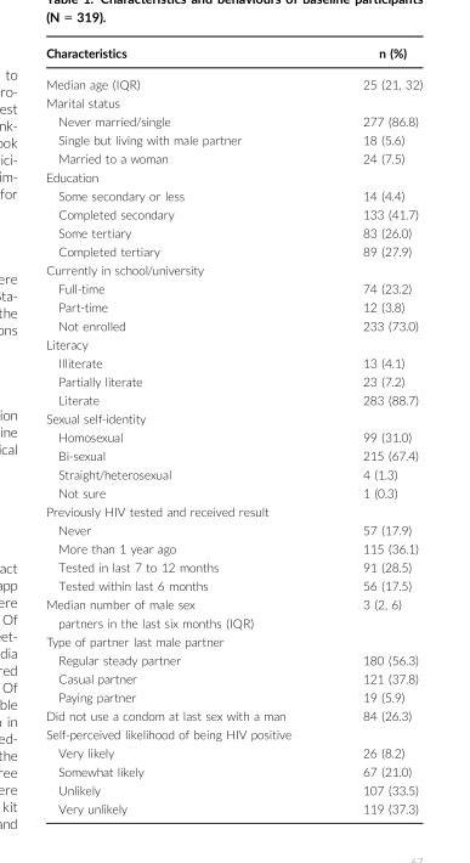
<table><thead><tr><td>Characteristics</td><td>n (%)</td></tr></thead><tbody><tr><td>Median age (IQR)</td><td>25 (21, 32)</td></tr><tr><td colspan="2">Marital status</td></tr><tr><td>Never married/single</td><td>277 (86.8)</td></tr><tr><td>Single but living with male partner</td><td>18 (5.6)</td></tr><tr><td>Married to a woman</td><td>24 (7.5)</td></tr><tr><td colspan="2">Education</td></tr><tr><td>Some secondary or less</td><td>14 (4.4)</td></tr><tr><td>Completed secondary</td><td>133 (41.7)</td></tr><tr><td>Some tertiary</td><td>83 (26.0)</td></tr><tr><td>Completed tertiary</td><td>89 (27.9)</td></tr><tr><td colspan="2">Currently in school/university</td></tr><tr><td>Full-time</td><td>74 (23.2)</td></tr><tr><td>Part-time</td><td>12 (3.8)</td></tr><tr><td>Not enrolled</td><td>233 (73.0)</td></tr><tr><td colspan="2">Literacy</td></tr><tr><td>Illiterate</td><td>13 (4.1)</td></tr><tr><td>Partially literate</td><td>23 (7.2)</td></tr><tr><td>Literate</td><td>283 (88.7)</td></tr><tr><td colspan="2">Sexual self-identity</td></tr><tr><td>Homosexual</td><td>99 (31.0)</td></tr><tr><td>Bi-sexual</td><td>215 (67.4)</td></tr><tr><td>Straight/heterosexual</td><td>4 (1.3)</td></tr><tr><td>Not sure</td><td>1 (0.3)</td></tr><tr><td colspan="2">Previously HIV tested and received result</td></tr><tr><td>Never</td><td>57 (17.9)</td></tr><tr><td>More than 1 year ago</td><td>115 (36.1)</td></tr><tr><td>Tested in last 7 to 12 months</td><td>91 (28.5)</td></tr><tr><td>Tested within last 6 months</td><td>56 (17.5)</td></tr><tr><td>Median number of male sex partners in the last six months (IQR)</td><td>3 (2, 6)</td></tr><tr><td colspan="2">Type of partner last male partner</td></tr><tr><td>Regular steady partner</td><td>180 (56.3)</td></tr><tr><td>Casual partner</td><td>121 (37.8)</td></tr><tr><td>Paying partner</td><td>19 (5.9)</td></tr><tr><td>Did not use a condom at last sex with a man</td><td>84 (26.3)</td></tr><tr><td colspan="2">Self-perceived likelihood of being HIV positive</td></tr><tr><td>Very likely</td><td>26 (8.2)</td></tr><tr><td>Somewhat likely</td><td>67 (21.0)</td></tr><tr><td>Unlikely</td><td>107 (33.5)</td></tr><tr><td>Very unlikely</td><td>119 (37.3)</td></tr></tbody></table>